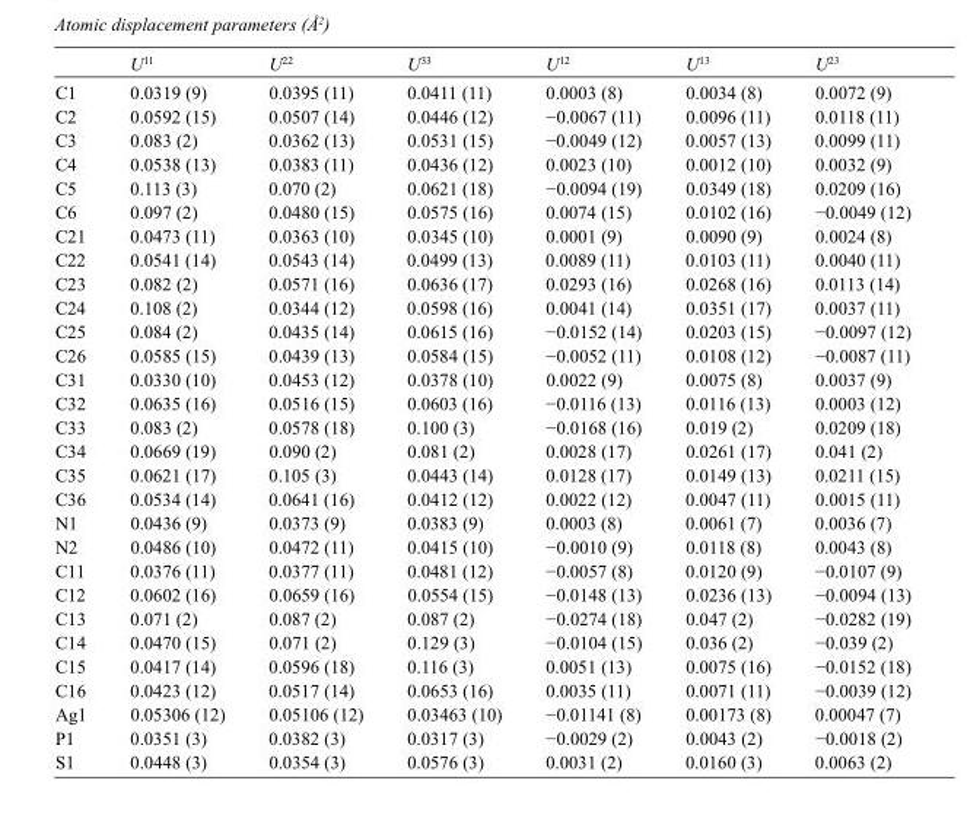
<table><thead><tr><td></td><td>U<sup>11</sup></td><td>U<sup>22</sup></td><td>U<sup>33</sup></td><td>U<sup>12</sup></td><td>U<sup>13</sup></td><td>U<sup>23</sup></td></tr></thead><tbody><tr><td>C1</td><td>0.0319 (9)</td><td>0.0395 (11)</td><td>0.0411 (11)</td><td>0.0003 (8)</td><td>0.0034 (8)</td><td>0.0072 (9)</td></tr><tr><td>C2</td><td>0.0592 (15)</td><td>0.0507 (14)</td><td>0.0446 (12)</td><td>−0.0067 (11)</td><td>0.0096 (11)</td><td>0.0118 (11)</td></tr><tr><td>C3</td><td>0.083 (2)</td><td>0.0362 (13)</td><td>0.0531 (15)</td><td>−0.0049 (12)</td><td>0.0057 (13)</td><td>0.0099 (11)</td></tr><tr><td>C4</td><td>0.0538 (13)</td><td>0.0383 (11)</td><td>0.0436 (12)</td><td>0.0023 (10)</td><td>0.0012 (10)</td><td>0.0032 (9)</td></tr><tr><td>C5</td><td>0.113 (3)</td><td>0.070 (2)</td><td>0.0621 (18)</td><td>−0.0094 (19)</td><td>0.0349 (18)</td><td>0.0209 (16)</td></tr><tr><td>C6</td><td>0.097 (2)</td><td>0.0480 (15)</td><td>0.0575 (16)</td><td>0.0074 (15)</td><td>0.0102 (16)</td><td>−0.0049 (12)</td></tr><tr><td>C21</td><td>0.0473 (11)</td><td>0.0363 (10)</td><td>0.0345 (10)</td><td>0.0001 (9)</td><td>0.0090 (9)</td><td>0.0024 (8)</td></tr><tr><td>C22</td><td>0.0541 (14)</td><td>0.0543 (14)</td><td>0.0499 (13)</td><td>0.0089 (11)</td><td>0.0103 (11)</td><td>0.0040 (11)</td></tr><tr><td>C23</td><td>0.082 (2)</td><td>0.0571 (16)</td><td>0.0636 (17)</td><td>0.0293 (16)</td><td>0.0268 (16)</td><td>0.0113 (14)</td></tr><tr><td>C24</td><td>0.108 (2)</td><td>0.0344 (12)</td><td>0.0598 (16)</td><td>0.0041 (14)</td><td>0.0351 (17)</td><td>0.0037 (11)</td></tr><tr><td>C25</td><td>0.084 (2)</td><td>0.0435 (14)</td><td>0.0615 (16)</td><td>−0.0152 (14)</td><td>0.0203 (15)</td><td>−0.0097 (12)</td></tr><tr><td>C26</td><td>0.0585 (15)</td><td>0.0439 (13)</td><td>0.0584 (15)</td><td>−0.0052 (11)</td><td>0.0108 (12)</td><td>−0.0087 (11)</td></tr><tr><td>C31</td><td>0.0330 (10)</td><td>0.0453 (12)</td><td>0.0378 (10)</td><td>0.0022 (9)</td><td>0.0075 (8)</td><td>0.0037 (9)</td></tr><tr><td>C32</td><td>0.0635 (16)</td><td>0.0516 (15)</td><td>0.0603 (16)</td><td>−0.0116 (13)</td><td>0.0116 (13)</td><td>0.0003 (12)</td></tr><tr><td>C33</td><td>0.083 (2)</td><td>0.0578 (18)</td><td>0.100 (3)</td><td>−0.0168 (16)</td><td>0.019 (2)</td><td>0.0209 (18)</td></tr><tr><td>C34</td><td>0.0669 (19)</td><td>0.090 (2)</td><td>0.081 (2)</td><td>0.0028 (17)</td><td>0.0261 (17)</td><td>0.041 (2)</td></tr><tr><td>C35</td><td>0.0621 (17)</td><td>0.105 (3)</td><td>0.0443 (14)</td><td>0.0128 (17)</td><td>0.0149 (13)</td><td>0.0211 (15)</td></tr><tr><td>C36</td><td>0.0534 (14)</td><td>0.0641 (16)</td><td>0.0412 (12)</td><td>0.0022 (12)</td><td>0.0047 (11)</td><td>0.0015 (11)</td></tr><tr><td>N1</td><td>0.0436 (9)</td><td>0.0373 (9)</td><td>0.0383 (9)</td><td>0.0003 (8)</td><td>0.0061 (7)</td><td>0.0036 (7)</td></tr><tr><td>N2</td><td>0.0486 (10)</td><td>0.0472 (11)</td><td>0.0415 (10)</td><td>−0.0010 (9)</td><td>0.0118 (8)</td><td>0.0043 (8)</td></tr><tr><td>C11</td><td>0.0376 (11)</td><td>0.0377 (11)</td><td>0.0481 (12)</td><td>−0.0057 (8)</td><td>0.0120 (9)</td><td>−0.0107 (9)</td></tr><tr><td>C12</td><td>0.0602 (16)</td><td>0.0659 (16)</td><td>0.0554 (15)</td><td>−0.0148 (13)</td><td>0.0236 (13)</td><td>−0.0094 (13)</td></tr><tr><td>C13</td><td>0.071 (2)</td><td>0.087 (2)</td><td>0.087 (2)</td><td>−0.0274 (18)</td><td>0.047 (2)</td><td>−0.0282 (19)</td></tr><tr><td>C14</td><td>0.0470 (15)</td><td>0.071 (2)</td><td>0.129 (3)</td><td>−0.0104 (15)</td><td>0.036 (2)</td><td>−0.039 (2)</td></tr><tr><td>C15</td><td>0.0417 (14)</td><td>0.0596 (18)</td><td>0.116 (3)</td><td>0.0051 (13)</td><td>0.0075 (16)</td><td>−0.0152 (18)</td></tr><tr><td>C16</td><td>0.0423 (12)</td><td>0.0517 (14)</td><td>0.0653 (16)</td><td>0.0035 (11)</td><td>0.0071 (11)</td><td>−0.0039 (12)</td></tr><tr><td>Ag1</td><td>0.05306 (12)</td><td>0.05106 (12)</td><td>0.03463 (10)</td><td>−0.01141 (8)</td><td>0.00173 (8)</td><td>0.00047 (7)</td></tr><tr><td>P1</td><td>0.0351 (3)</td><td>0.0382 (3)</td><td>0.0317 (3)</td><td>−0.0029 (2)</td><td>0.0043 (2)</td><td>−0.0018 (2)</td></tr><tr><td>S1</td><td>0.0448 (3)</td><td>0.0354 (3)</td><td>0.0576 (3)</td><td>0.0031 (2)</td><td>0.0160 (3)</td><td>0.0063 (2)</td></tr></tbody></table>